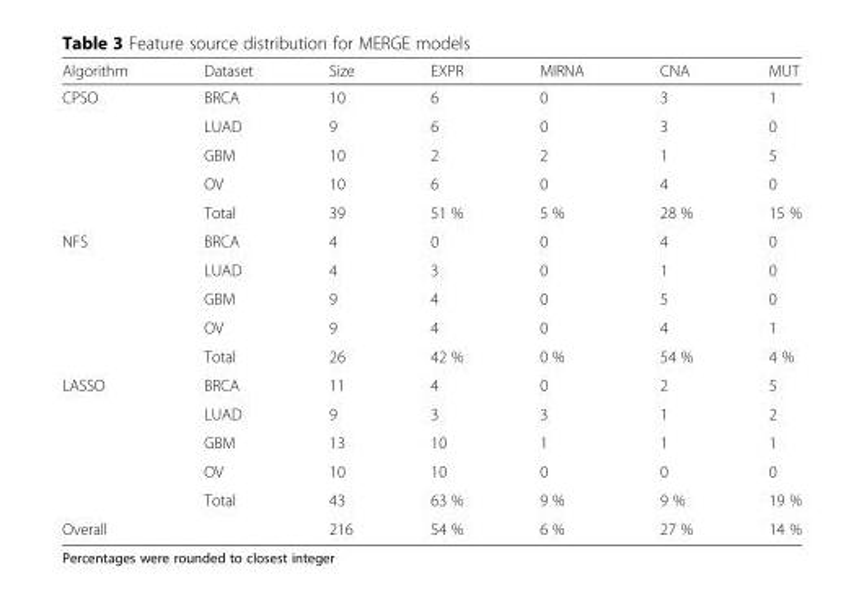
<table><thead><tr><td>Algorithm</td><td>Dataset</td><td>Size</td><td>EXPR</td><td>MIRNA</td><td>CNA</td><td>MUT</td></tr></thead><tbody><tr><td rowspan="5">CPSO</td><td>BRCA</td><td>10</td><td>6</td><td>0</td><td>3</td><td>1</td></tr><tr><td>LUAD</td><td>9</td><td>6</td><td>0</td><td>3</td><td>0</td></tr><tr><td>GBM</td><td>10</td><td>2</td><td>2</td><td>1</td><td>5</td></tr><tr><td>OV</td><td>10</td><td>6</td><td>0</td><td>4</td><td>0</td></tr><tr><td>Total</td><td>39</td><td>51 %</td><td>5 %</td><td>28 %</td><td>15 %</td></tr><tr><td rowspan="5">NFS</td><td>BRCA</td><td>4</td><td>0</td><td>0</td><td>4</td><td>0</td></tr><tr><td>LUAD</td><td>4</td><td>3</td><td>0</td><td>1</td><td>0</td></tr><tr><td>GBM</td><td>9</td><td>4</td><td>0</td><td>5</td><td>0</td></tr><tr><td>OV</td><td>9</td><td>4</td><td>0</td><td>4</td><td>1</td></tr><tr><td>Total</td><td>26</td><td>42 %</td><td>0 %</td><td>54 %</td><td>4 %</td></tr><tr><td rowspan="5">LASSO</td><td>BRCA</td><td>11</td><td>4</td><td>0</td><td>2</td><td>5</td></tr><tr><td>LUAD</td><td>9</td><td>3</td><td>3</td><td>1</td><td>2</td></tr><tr><td>GBM</td><td>13</td><td>10</td><td>1</td><td>1</td><td>1</td></tr><tr><td>OV</td><td>10</td><td>10</td><td>0</td><td>0</td><td>0</td></tr><tr><td>Total</td><td>43</td><td>63 %</td><td>9 %</td><td>9 %</td><td>19 %</td></tr><tr><td colspan="2">Overall</td><td>216</td><td>54 %</td><td>6 %</td><td>27 %</td><td>14 %</td></tr></tbody></table>